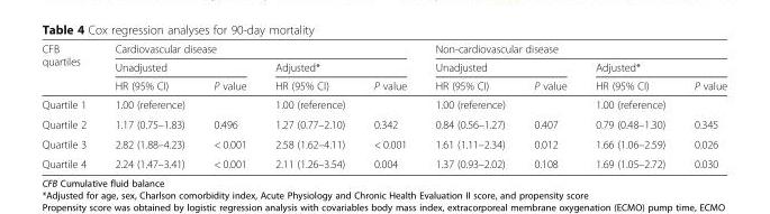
<table><thead><tr><td rowspan="3">CFB quartiles</td><td colspan="4">Cardiovascular disease</td><td colspan="4">Non-cardiovascular disease</td></tr><tr><td colspan="2">Unadjusted</td><td colspan="2">Adjusted*</td><td colspan="2">Unadjusted</td><td colspan="2">Adjusted*</td></tr><tr><td>HR (95% CI)</td><td>P value</td><td>HR (95% CI)</td><td>P value</td><td>HR (95% CI)</td><td>P value</td><td>HR (95% CI)</td><td>P value</td></tr></thead><tbody><tr><td>Quartile 1</td><td>1.00 (reference)</td><td></td><td>1.00 (reference)</td><td></td><td>1.00 (reference)</td><td></td><td>1.00 (reference)</td><td></td></tr><tr><td>Quartile 2</td><td>1.17 (0.75–1.83)</td><td>0.496</td><td>1.27 (0.77–2.10)</td><td>0.342</td><td>0.84 (0.56–1.27)</td><td>0.407</td><td>0.79 (0.48–1.30)</td><td>0.345</td></tr><tr><td>Quartile 3</td><td>2.82 (1.88–4.23)</td><td>&lt; 0.001</td><td>2.58 (1.62–4.11)</td><td>&lt; 0.001</td><td>1.61 (1.11–2.34)</td><td>0.012</td><td>1.66 (1.06–2.59)</td><td>0.026</td></tr><tr><td>Quartile 4</td><td>2.24 (1.47–3.41)</td><td>&lt; 0.001</td><td>2.11 (1.26–3.54)</td><td>0.004</td><td>1.37 (0.93–2.02)</td><td>0.108</td><td>1.69 (1.05–2.72)</td><td>0.030</td></tr></tbody></table>